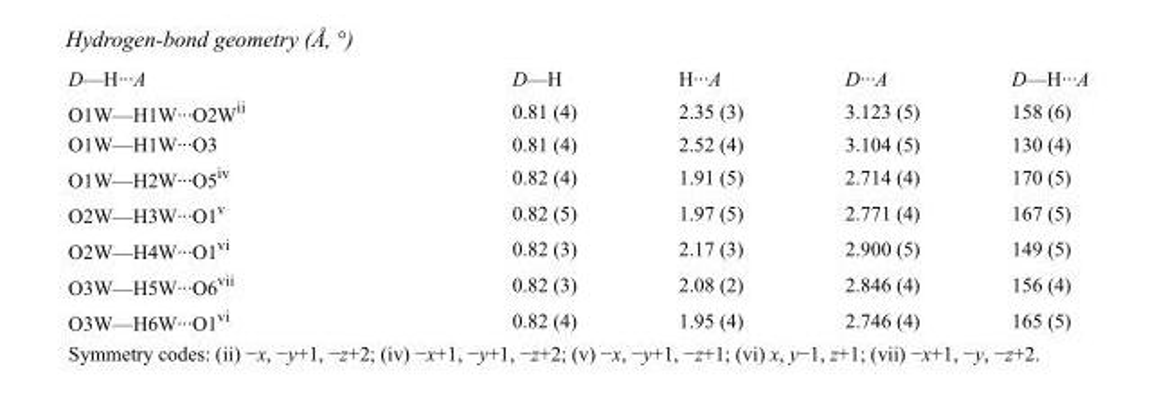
<table><tbody><tr><td>D—H···A</td><td>D—H</td><td>H···A</td><td>D···A</td><td>D—H···A</td></tr><tr><td>O1W—H1W···O2W<sup>ii</sup></td><td>0.81 (4)</td><td>2.35 (3)</td><td>3.123 (5)</td><td>158 (6)</td></tr><tr><td>O1W—H1W···O3</td><td>0.81 (4)</td><td>2.52 (4)</td><td>3.104 (5)</td><td>130 (4)</td></tr><tr><td>O1W—H2W···O5<sup>iv</sup></td><td>0.82 (4)</td><td>1.91 (5)</td><td>2.714 (4)</td><td>170 (5)</td></tr><tr><td>O2W—H3W···O1<sup>v</sup></td><td>0.82 (5)</td><td>1.97 (5)</td><td>2.771 (4)</td><td>167 (5)</td></tr><tr><td>O2W—H4W···O1<sup>vi</sup></td><td>0.82 (3)</td><td>2.17 (3)</td><td>2.900 (5)</td><td>149 (5)</td></tr><tr><td>O3W—H5W···O6<sup>vii</sup></td><td>0.82 (3)</td><td>2.08 (2)</td><td>2.846 (4)</td><td>156 (4)</td></tr><tr><td>O3W—H6W···O1<sup>vi</sup></td><td>0.82 (4)</td><td>1.95 (4)</td><td>2.746 (4)</td><td>165 (5)</td></tr></tbody></table>